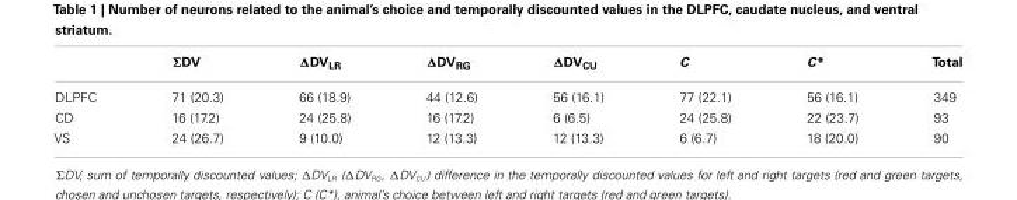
<table><thead><tr><td></td><td>ΣDV</td><td>∆DVLR</td><td>∆DVRG</td><td>∆DVCU</td><td>C</td><td>C*</td><td>Total</td></tr></thead><tbody><tr><td>DLPFC</td><td>71 (20.3)</td><td>66 (18.9)</td><td>44 (12.6)</td><td>56 (16.1)</td><td>77 (22.1)</td><td>56 (16.1)</td><td>349</td></tr><tr><td>CD</td><td>16 (17.2)</td><td>24 (25.8)</td><td>16 (17.2)</td><td>6 (6.5)</td><td>24 (25.8)</td><td>22 (23.7)</td><td>93</td></tr><tr><td>VS</td><td>24 (26.7)</td><td>9 (10.0)</td><td>12 (13.3)</td><td>12 (13.3)</td><td>6 (6.7)</td><td>18 (20.0)</td><td>90</td></tr></tbody></table>